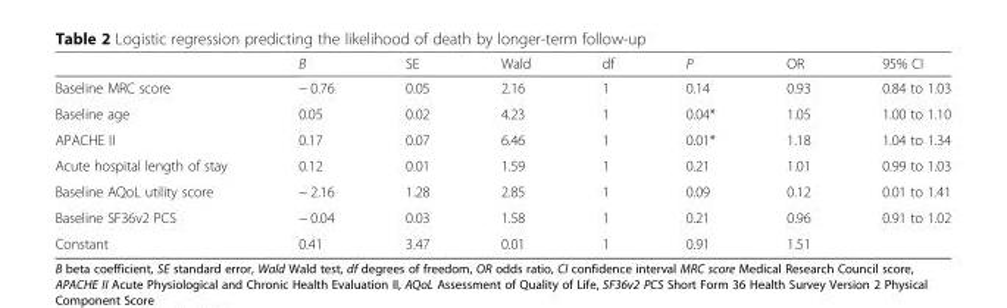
<table><thead><tr><td></td><td>B</td><td>SE</td><td>Wald</td><td>df</td><td>P</td><td>OR</td><td>95% CI</td></tr></thead><tbody><tr><td>Baseline MRC score</td><td>− 0.76</td><td>0.05</td><td>2.16</td><td>1</td><td>0.14</td><td>0.93</td><td>0.84 to 1.03</td></tr><tr><td>Baseline age</td><td>0.05</td><td>0.02</td><td>4.23</td><td>1</td><td>0.04*</td><td>1.05</td><td>1.00 to 1.10</td></tr><tr><td>APACHE II</td><td>0.17</td><td>0.07</td><td>6.46</td><td>1</td><td>0.01*</td><td>1.18</td><td>1.04 to 1.34</td></tr><tr><td>Acute hospital length of stay</td><td>0.12</td><td>0.01</td><td>1.59</td><td>1</td><td>0.21</td><td>1.01</td><td>0.99 to 1.03</td></tr><tr><td>Baseline AQoL utility score</td><td>− 2.16</td><td>1.28</td><td>2.85</td><td>1</td><td>0.09</td><td>0.12</td><td>0.01 to 1.41</td></tr><tr><td>Baseline SF36v2 PCS</td><td>− 0.04</td><td>0.03</td><td>1.58</td><td>1</td><td>0.21</td><td>0.96</td><td>0.91 to 1.02</td></tr><tr><td>Constant</td><td>0.41</td><td>3.47</td><td>0.01</td><td>1</td><td>0.91</td><td>1.51</td><td></td></tr></tbody></table>